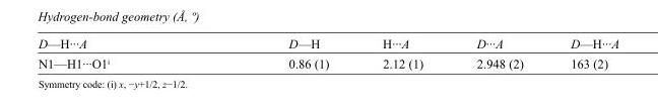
<table><tbody><tr><td>D—H···A</td><td>D—H</td><td>H···A</td><td>D···A</td><td>D—H···A</td></tr><tr><td>N1—H1···O1<sup>i</sup></td><td>0.86 (1)</td><td>2.12 (1)</td><td>2.948 (2)</td><td>163 (2)</td></tr></tbody></table>